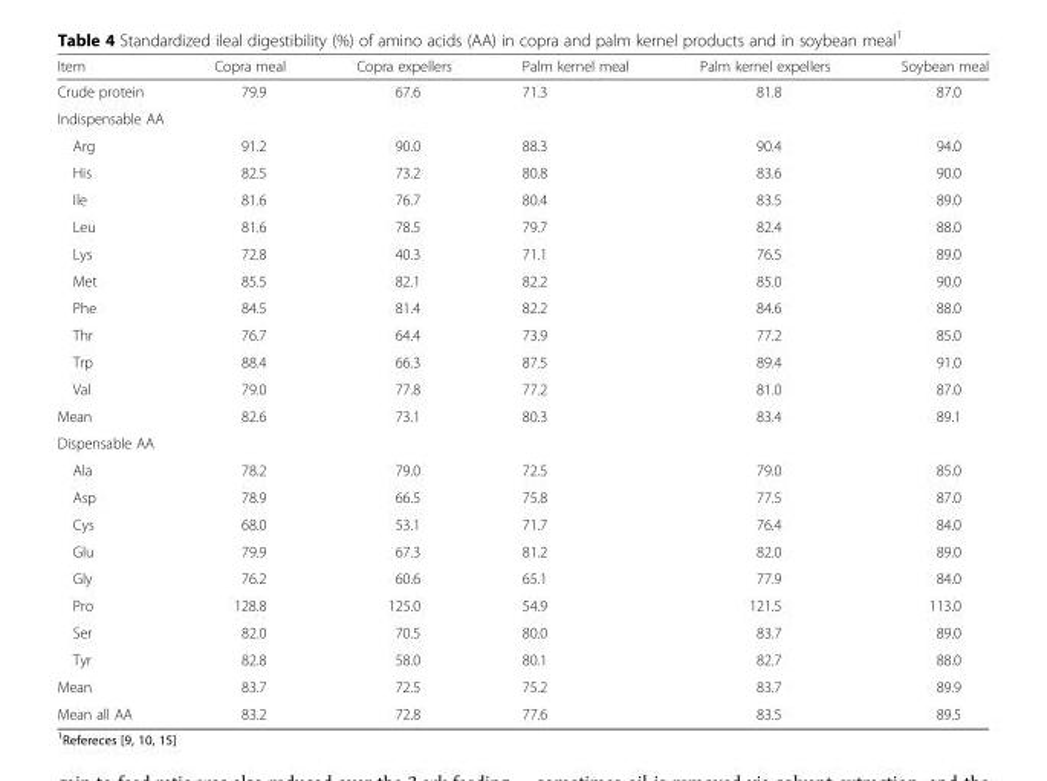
<table><thead><tr><td>Item</td><td>Copra meal</td><td>Copra expellers</td><td>Palm kernel meal</td><td>Palm kernel expellers</td><td>Soybean meal</td></tr></thead><tbody><tr><td>Crude protein</td><td>79.9</td><td>67.6</td><td>71.3</td><td>81.8</td><td>87.0</td></tr><tr><td colspan="6">Indispensable AA</td></tr><tr><td>Arg</td><td>91.2</td><td>90.0</td><td>88.3</td><td>90.4</td><td>94.0</td></tr><tr><td>His</td><td>82.5</td><td>73.2</td><td>80.8</td><td>83.6</td><td>90.0</td></tr><tr><td>Ile</td><td>81.6</td><td>76.7</td><td>80.4</td><td>83.5</td><td>89.0</td></tr><tr><td>Leu</td><td>81.6</td><td>78.5</td><td>79.7</td><td>82.4</td><td>88.0</td></tr><tr><td>Lys</td><td>72.8</td><td>40.3</td><td>71.1</td><td>76.5</td><td>89.0</td></tr><tr><td>Met</td><td>85.5</td><td>82.1</td><td>82.2</td><td>85.0</td><td>90.0</td></tr><tr><td>Phe</td><td>84.5</td><td>81.4</td><td>82.2</td><td>84.6</td><td>88.0</td></tr><tr><td>Thr</td><td>76.7</td><td>64.4</td><td>73.9</td><td>77.2</td><td>85.0</td></tr><tr><td>Trp</td><td>88.4</td><td>66.3</td><td>87.5</td><td>89.4</td><td>91.0</td></tr><tr><td>Val</td><td>79.0</td><td>77.8</td><td>77.2</td><td>81.0</td><td>87.0</td></tr><tr><td>Mean</td><td>82.6</td><td>73.1</td><td>80.3</td><td>83.4</td><td>89.1</td></tr><tr><td colspan="6">Dispensable AA</td></tr><tr><td>Ala</td><td>78.2</td><td>79.0</td><td>72.5</td><td>79.0</td><td>85.0</td></tr><tr><td>Asp</td><td>78.9</td><td>66.5</td><td>75.8</td><td>77.5</td><td>87.0</td></tr><tr><td>Cys</td><td>68.0</td><td>53.1</td><td>71.7</td><td>76.4</td><td>84.0</td></tr><tr><td>Glu</td><td>79.9</td><td>67.3</td><td>81.2</td><td>82.0</td><td>89.0</td></tr><tr><td>Gly</td><td>76.2</td><td>60.6</td><td>65.1</td><td>77.9</td><td>84.0</td></tr><tr><td>Pro</td><td>128.8</td><td>125.0</td><td>54.9</td><td>121.5</td><td>113.0</td></tr><tr><td>Ser</td><td>82.0</td><td>70.5</td><td>80.0</td><td>83.7</td><td>89.0</td></tr><tr><td>Tyr</td><td>82.8</td><td>58.0</td><td>80.1</td><td>82.7</td><td>88.0</td></tr><tr><td>Mean</td><td>83.7</td><td>72.5</td><td>75.2</td><td>83.7</td><td>89.9</td></tr><tr><td>Mean all AA</td><td>83.2</td><td>72.8</td><td>77.6</td><td>83.5</td><td>89.5</td></tr></tbody></table>